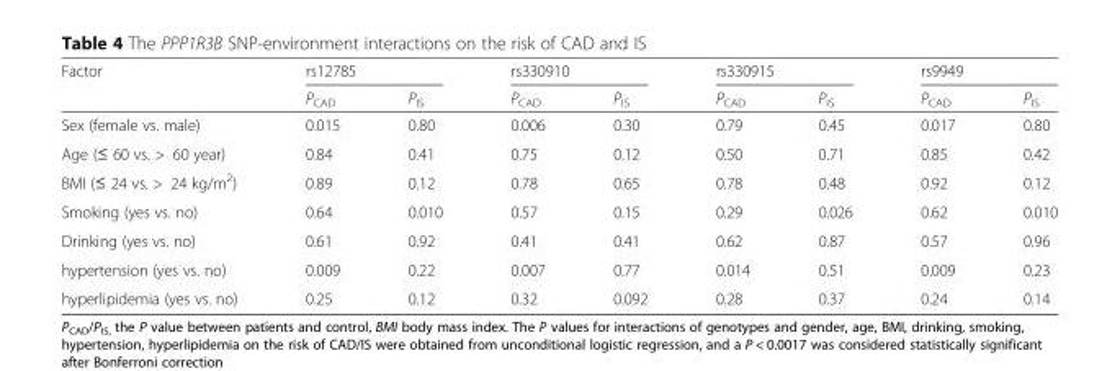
<table><thead><tr><td rowspan="2">Factor</td><td colspan="2">rs12785</td><td colspan="2">rs330910</td><td colspan="2">rs330915</td><td colspan="2">rs9949</td></tr><tr><td>P<sub>CAD</sub></td><td>P<sub>IS</sub></td><td>P<sub>CAD</sub></td><td>P<sub>IS</sub></td><td>P<sub>CAD</sub></td><td>P<sub>IS</sub></td><td>P<sub>CAD</sub></td><td>P<sub>IS</sub></td></tr></thead><tbody><tr><td>Sex (female vs. male)</td><td>0.015</td><td>0.80</td><td>0.006</td><td>0.30</td><td>0.79</td><td>0.45</td><td>0.017</td><td>0.80</td></tr><tr><td>Age (≤ 60 vs. &gt; 60 year)</td><td>0.84</td><td>0.41</td><td>0.75</td><td>0.12</td><td>0.50</td><td>0.71</td><td>0.85</td><td>0.42</td></tr><tr><td>BMI (≤ 24 vs. &gt; 24 kg/m<sup>2</sup>)</td><td>0.89</td><td>0.12</td><td>0.78</td><td>0.65</td><td>0.78</td><td>0.48</td><td>0.92</td><td>0.12</td></tr><tr><td>Smoking (yes vs. no)</td><td>0.64</td><td>0.010</td><td>0.57</td><td>0.15</td><td>0.29</td><td>0.026</td><td>0.62</td><td>0.010</td></tr><tr><td>Drinking (yes vs. no)</td><td>0.61</td><td>0.92</td><td>0.41</td><td>0.41</td><td>0.62</td><td>0.87</td><td>0.57</td><td>0.96</td></tr><tr><td>hypertension (yes vs. no)</td><td>0.009</td><td>0.22</td><td>0.007</td><td>0.77</td><td>0.014</td><td>0.51</td><td>0.009</td><td>0.23</td></tr><tr><td>hyperlipidemia (yes vs. no)</td><td>0.25</td><td>0.12</td><td>0.32</td><td>0.092</td><td>0.28</td><td>0.37</td><td>0.24</td><td>0.14</td></tr></tbody></table>